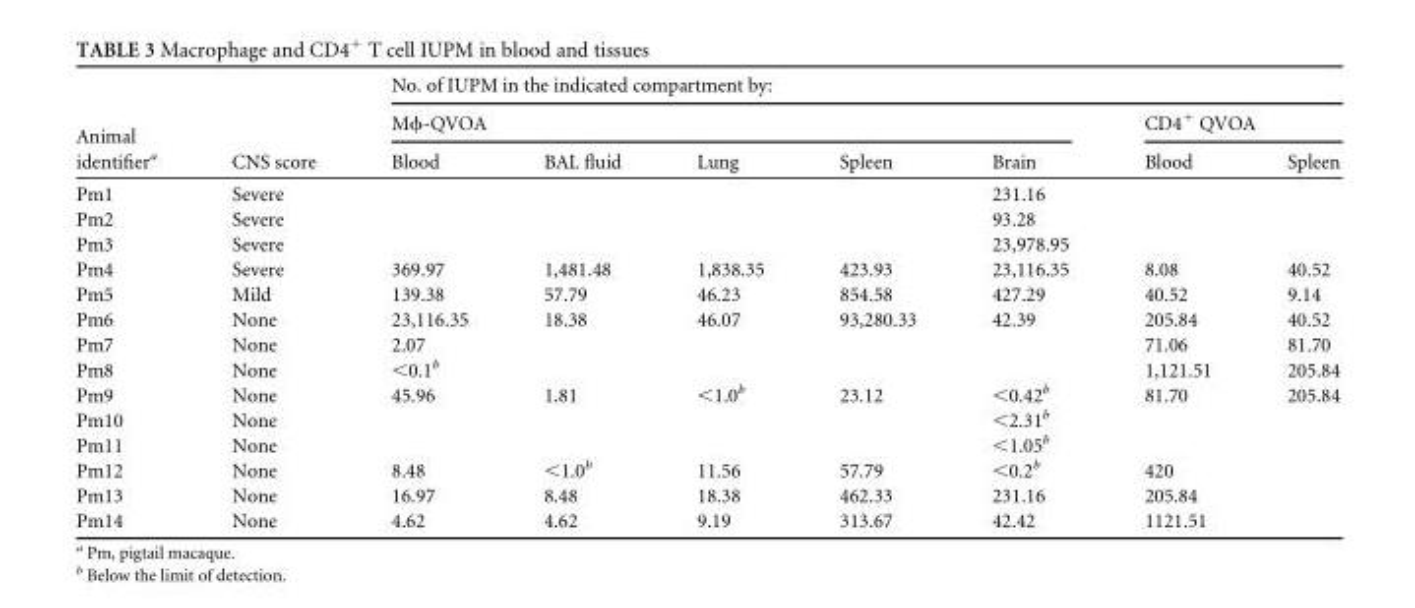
<table><thead><tr><td rowspan="3">Animal identifier<sup>a</sup></td><td rowspan="3">CNS score</td><td colspan="7">No. of IUPM in the indicated compartment by:</td></tr><tr><td colspan="5">Mϕ-QVOA</td><td colspan="2">CD4<sup>+</sup> QVOA</td></tr><tr><td>Blood</td><td>BAL fluid</td><td>Lung</td><td>Spleen</td><td>Brain</td><td>Blood</td><td>Spleen</td></tr></thead><tbody><tr><td>Pm1</td><td>Severe</td><td></td><td></td><td></td><td></td><td>231.16</td><td></td><td></td></tr><tr><td>Pm2</td><td>Severe</td><td></td><td></td><td></td><td></td><td>93.28</td><td></td><td></td></tr><tr><td>Pm3</td><td>Severe</td><td></td><td></td><td></td><td></td><td>23,978.95</td><td></td><td></td></tr><tr><td>Pm4</td><td>Severe</td><td>369.97</td><td>1,481.48</td><td>1,838.35</td><td>423.93</td><td>23,116.35</td><td>8.08</td><td>40.52</td></tr><tr><td>Pm5</td><td>Mild</td><td>139.38</td><td>57.79</td><td>46.23</td><td>854.58</td><td>427.29</td><td>40.52</td><td>9.14</td></tr><tr><td>Pm6</td><td>None</td><td>23,116.35</td><td>18.38</td><td>46.07</td><td>93,280.33</td><td>42.39</td><td>205.84</td><td>40.52</td></tr><tr><td>Pm7</td><td>None</td><td>2.07</td><td></td><td></td><td></td><td></td><td>71.06</td><td>81.70</td></tr><tr><td>Pm8</td><td>None</td><td>&lt;0.1<sup>b</sup></td><td></td><td></td><td></td><td></td><td>1,121.51</td><td>205.84</td></tr><tr><td>Pm9</td><td>None</td><td>45.96</td><td>1.81</td><td>&lt;1.0<sup>b</sup></td><td>23.12</td><td>&lt;0.42<sup>b</sup></td><td>81.70</td><td>205.84</td></tr><tr><td>Pm10</td><td>None</td><td></td><td></td><td></td><td></td><td>&lt;2.31<sup>b</sup></td><td></td><td></td></tr><tr><td>Pm11</td><td>None</td><td></td><td></td><td></td><td></td><td>&lt;1.05<sup>b</sup></td><td></td><td></td></tr><tr><td>Pm12</td><td>None</td><td>8.48</td><td>&lt;1.0<sup>b</sup></td><td>11.56</td><td>57.79</td><td>&lt;0.2<sup>b</sup></td><td>420</td><td></td></tr><tr><td>Pm13</td><td>None</td><td>16.97</td><td>8.48</td><td>18.38</td><td>462.33</td><td>231.16</td><td>205.84</td><td></td></tr><tr><td>Pm14</td><td>None</td><td>4.62</td><td>4.62</td><td>9.19</td><td>313.67</td><td>42.42</td><td>1121.51</td><td></td></tr></tbody></table>